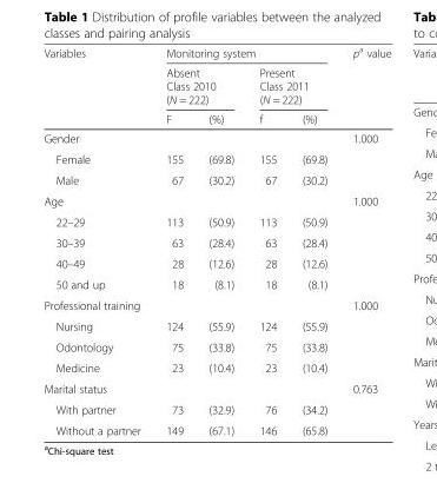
<table><thead><tr><td rowspan="3">Variables</td><td colspan="4">Monitoring system</td><td rowspan="3">p<sup>a</sup> value</td></tr><tr><td colspan="2">Absent Class 2010 (N = 222)</td><td colspan="2">Present Class 2011 (N = 222)</td></tr><tr><td>F</td><td>(%)</td><td>f</td><td>(%)</td></tr></thead><tbody><tr><td>Gender</td><td></td><td></td><td></td><td></td><td>1.000</td></tr><tr><td>Female</td><td>155</td><td>(69.8)</td><td>155</td><td>(69.8)</td><td rowspan="2"></td></tr><tr><td>Male</td><td>67</td><td>(30.2)</td><td>67</td><td>(30.2)</td></tr><tr><td>Age</td><td></td><td></td><td></td><td></td><td>1.000</td></tr><tr><td>22–29</td><td>113</td><td>(50.9)</td><td>113</td><td>(50.9)</td><td rowspan="4"></td></tr><tr><td>30–39</td><td>63</td><td>(28.4)</td><td>63</td><td>(28.4)</td></tr><tr><td>40–49</td><td>28</td><td>(12.6)</td><td>28</td><td>(12.6)</td></tr><tr><td>50 and up</td><td>18</td><td>(8.1)</td><td>18</td><td>(8.1)</td></tr><tr><td>Professional training</td><td></td><td></td><td></td><td></td><td>1.000</td></tr><tr><td>Nursing</td><td>124</td><td>(55.9)</td><td>124</td><td>(55.9)</td><td rowspan="3"></td></tr><tr><td>Odontology</td><td>75</td><td>(33.8)</td><td>75</td><td>(33.8)</td></tr><tr><td>Medicine</td><td>23</td><td>(10.4)</td><td>23</td><td>(10.4)</td></tr><tr><td>Marital status</td><td></td><td></td><td></td><td></td><td>0.763</td></tr><tr><td>With partner</td><td>73</td><td>(32.9)</td><td>76</td><td>(34.2)</td><td rowspan="2"></td></tr><tr><td>Without a partner</td><td>149</td><td>(67.1)</td><td>146</td><td>(65.8)</td></tr></tbody></table>